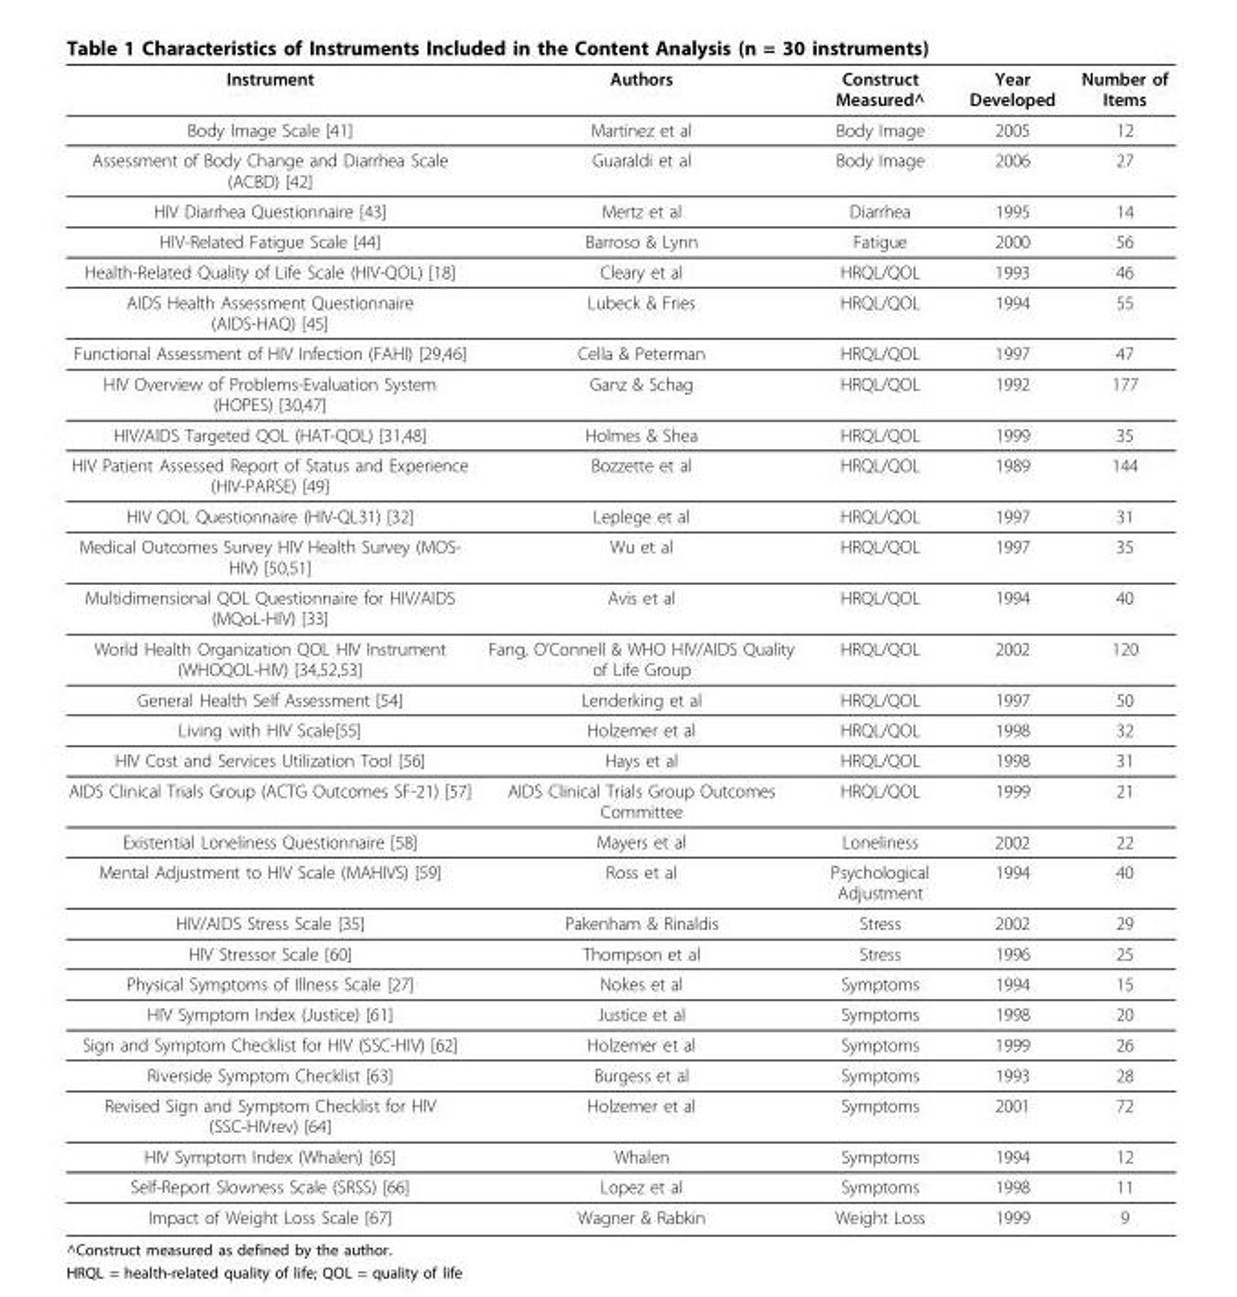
<table><thead><tr><td>Instrument</td><td>Authors</td><td>Construct Measured^</td><td>Year Developed</td><td>Number of Items</td></tr></thead><tbody><tr><td>Body Image Scale [41]</td><td>Martinez et al</td><td>Body Image</td><td>2005</td><td>12</td></tr><tr><td>Assessment of Body Change and Diarrhea Scale (ACBD) [42]</td><td>Guaraldi et al</td><td>Body Image</td><td>2006</td><td>27</td></tr><tr><td>HIV Diarrhea Questionnaire [43]</td><td>Mertz et al</td><td>Diarrhea</td><td>1995</td><td>14</td></tr><tr><td>HIV-Related Fatigue Scale [44]</td><td>Barroso &amp; Lynn</td><td>Fatigue</td><td>2000</td><td>56</td></tr><tr><td>Health-Related Quality of Life Scale (HIV-QOL) [18]</td><td>Cleary et al</td><td>HRQL/QOL</td><td>1993</td><td>46</td></tr><tr><td>AIDS Health Assessment Questionnaire (AIDS-HAQ) [45]</td><td>Lubeck &amp; Fries</td><td>HRQL/QOL</td><td>1994</td><td>55</td></tr><tr><td>Functional Assessment of HIV Infection (FAHI) [29,46]</td><td>Cella &amp; Peterman</td><td>HRQL/QOL</td><td>1997</td><td>47</td></tr><tr><td>HIV Overview of Problems-Evaluation System (HOPES) [30,47]</td><td>Ganz &amp; Schag</td><td>HRQL/QOL</td><td>1992</td><td>177</td></tr><tr><td>HIV/AIDS Targeted QOL (HAT-QOL) [31,48]</td><td>Holmes &amp; Shea</td><td>HRQL/QOL</td><td>1999</td><td>35</td></tr><tr><td>HIV Patient Assessed Report of Status and Experience (HIV-PARSE) [49]</td><td>Bozzette et al</td><td>HRQL/QOL</td><td>1989</td><td>144</td></tr><tr><td>HIV QOL Questionnaire (HIV-QL31) [32]</td><td>Leplege et al</td><td>HRQL/QOL</td><td>1997</td><td>31</td></tr><tr><td>Medical Outcomes Survey HIV Health Survey (MOS- HIV) [50,51]</td><td>Wu et al</td><td>HRQL/QOL</td><td>1997</td><td>35</td></tr><tr><td>Multidimensional QOL Questionnaire for HIV/AIDS (MQoL-HIV) [33]</td><td>Avis et al</td><td>HRQL/QOL</td><td>1994</td><td>40</td></tr><tr><td>World Health Organization QOL HIV Instrument (WHOQOL-HIV) [34,52,53]</td><td>Fang, O’Connell &amp; WHO HIV/AIDS Quality of Life Group</td><td>HRQL/QOL</td><td>2002</td><td>120</td></tr><tr><td>General Health Self Assessment [54]</td><td>Lenderking et al</td><td>HRQL/QOL</td><td>1997</td><td>50</td></tr><tr><td>Living with HIV Scale[55]</td><td>Holzemer et al</td><td>HRQL/QOL</td><td>1998</td><td>32</td></tr><tr><td>HIV Cost and Services Utilization Tool [56]</td><td>Hays et al</td><td>HRQL/QOL</td><td>1998</td><td>31</td></tr><tr><td>AIDS Clinical Trials Group (ACTG Outcomes SF-21) [57]</td><td>AIDS Clinical Trials Group Outcomes Committee</td><td>HRQL/QOL</td><td>1999</td><td>21</td></tr><tr><td>Existential Loneliness Questionnaire [58]</td><td>Mayers et al</td><td>Loneliness</td><td>2002</td><td>22</td></tr><tr><td>Mental Adjustment to HIV Scale (MAHIVS) [59]</td><td>Ross et al</td><td>Psychological Adjustment</td><td>1994</td><td>40</td></tr><tr><td>HIV/AIDS Stress Scale [35]</td><td>Pakenham &amp; Rinaldis</td><td>Stress</td><td>2002</td><td>29</td></tr><tr><td>HIV Stressor Scale [60]</td><td>Thompson et al</td><td>Stress</td><td>1996</td><td>25</td></tr><tr><td>Physical Symptoms of Illness Scale [27]</td><td>Nokes et al</td><td>Symptoms</td><td>1994</td><td>15</td></tr><tr><td>HIV Symptom Index (Justice) [61]</td><td>Justice et al</td><td>Symptoms</td><td>1998</td><td>20</td></tr><tr><td>Sign and Symptom Checklist for HIV (SSC-HIV) [62]</td><td>Holzemer et al</td><td>Symptoms</td><td>1999</td><td>26</td></tr><tr><td>Riverside Symptom Checklist [63]</td><td>Burgess et al</td><td>Symptoms</td><td>1993</td><td>28</td></tr><tr><td>Revised Sign and Symptom Checklist for HIV (SSC-HIVrev) [64]</td><td>Holzemer et al</td><td>Symptoms</td><td>2001</td><td>72</td></tr><tr><td>HIV Symptom Index (Whalen) [65]</td><td>Whalen</td><td>Symptoms</td><td>1994</td><td>12</td></tr><tr><td>Self-Report Slowness Scale (SRSS) [66]</td><td>Lopez et al</td><td>Symptoms</td><td>1998</td><td>11</td></tr><tr><td>Impact of Weight Loss Scale [67]</td><td>Wagner &amp; Rabkin</td><td>Weight Loss</td><td>1999</td><td>9</td></tr></tbody></table>